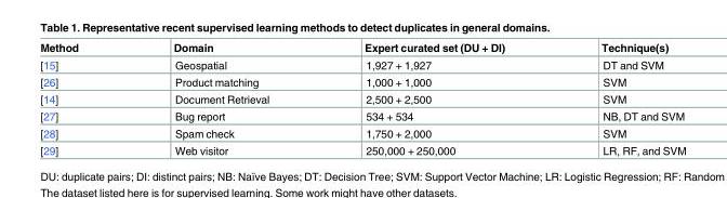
<table><thead><tr><td>Method</td><td>Domain</td><td>Expert curated set (DU + DI)</td><td>Technique(s)</td></tr></thead><tbody><tr><td>[15]</td><td>Geospatial</td><td>1,927 + 1,927</td><td>DT and SVM</td></tr><tr><td>[26]</td><td>Product matching</td><td>1,000 + 1,000</td><td>SVM</td></tr><tr><td>[14]</td><td>Document Retrieval</td><td>2,500 + 2,500</td><td>SVM</td></tr><tr><td>[27]</td><td>Bug report</td><td>534 + 534</td><td>NB, DT and SVM</td></tr><tr><td>[28]</td><td>Spam check</td><td>1,750 + 2,000</td><td>SVM</td></tr><tr><td>[29]</td><td>Web visitor</td><td>250,000 + 250,000</td><td>LR, RF, and SVM</td></tr></tbody></table>